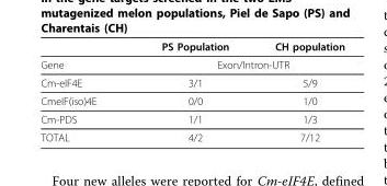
<table><thead><tr><td></td><td>PS Population</td><td>CH population</td></tr></thead><tbody><tr><td>Gene</td><td colspan="2">Exon/Intron-UTR</td></tr><tr><td>Cm-eIF4E</td><td>3/1</td><td>5/9</td></tr><tr><td>CmeIF(iso)4E</td><td>0/0</td><td>1/0</td></tr><tr><td>Cm-PDS</td><td>1/1</td><td>1/3</td></tr><tr><td>TOTAL</td><td>4/2</td><td>7/12</td></tr></tbody></table>